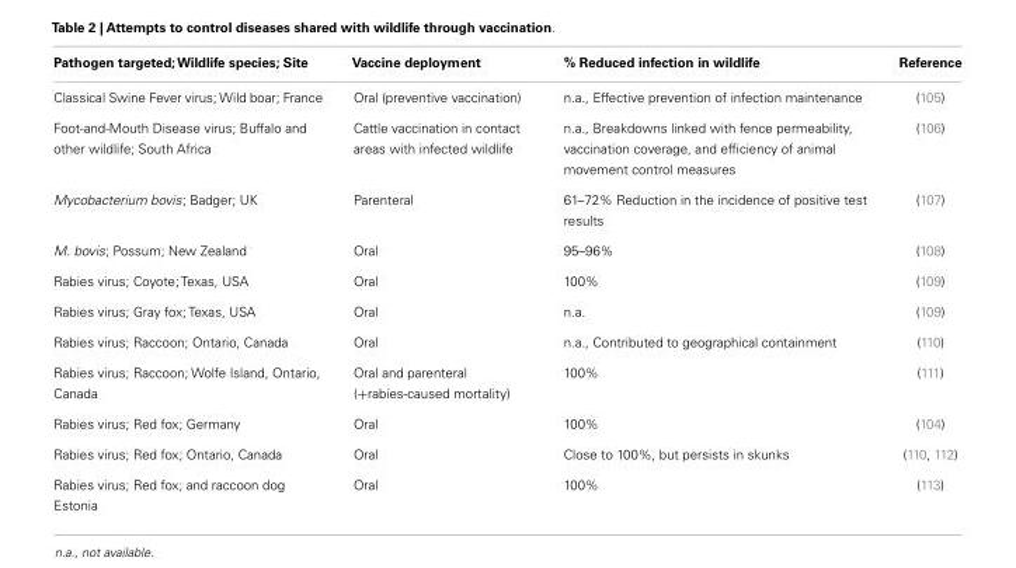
<table><thead><tr><td>Pathogen targeted;Wildlife species; Site</td><td>Vaccine deployment</td><td>% Reduced infection in wildlife</td><td>Reference</td></tr></thead><tbody><tr><td>Classical Swine Fever virus; Wild boar; France</td><td>Oral (preventive vaccination)</td><td>n.a., Effective prevention of infection maintenance</td><td>(105)</td></tr><tr><td>Foot-and-Mouth Disease virus; Buffalo and other wildlife; South Africa</td><td>Cattle vaccination in contact areas with infected wildlife</td><td>n.a., Breakdowns linked with fence permeability, vaccination coverage, and efficiency of animal movement control measures</td><td>(106)</td></tr><tr><td>Mycobacterium bovis; Badger; UK</td><td>Parenteral</td><td>61–72% Reduction in the incidence of positive test results</td><td>(107)</td></tr><tr><td>M. bovis; Possum; New Zealand</td><td>Oral</td><td>95–96%</td><td>(108)</td></tr><tr><td>Rabies virus; Coyote; Texas, USA</td><td>Oral</td><td>100%</td><td>(109)</td></tr><tr><td>Rabies virus; Gray fox; Texas, USA</td><td>Oral</td><td>n.a.</td><td>(109)</td></tr><tr><td>Rabies virus; Raccoon; Ontario, Canada</td><td>Oral</td><td>n.a., Contributed to geographical containment</td><td>(110)</td></tr><tr><td>Rabies virus; Raccoon; Wolfe Island, Ontario, Canada</td><td>Oral and parenteral (+rabies-caused mortality)</td><td>100%</td><td>(111)</td></tr><tr><td>Rabies virus; Red fox; Germany</td><td>Oral</td><td>100%</td><td>(104)</td></tr><tr><td>Rabies virus; Red fox; Ontario, Canada</td><td>Oral</td><td>Close to 100%, but persists in skunks</td><td>(110, 112)</td></tr><tr><td>Rabies virus; Red fox; and raccoon dog Estonia</td><td>Oral</td><td>100%</td><td>(113)</td></tr></tbody></table>